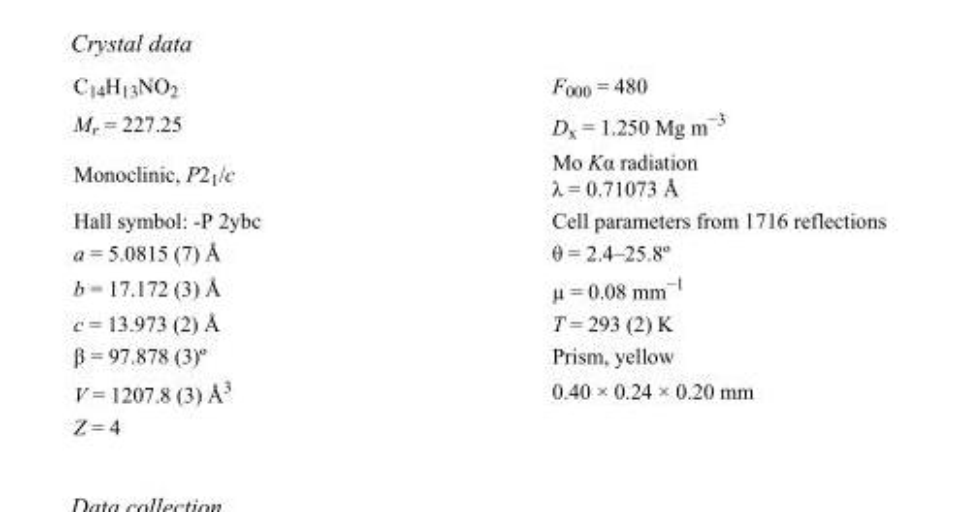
<table><tbody><tr><td>C<sub>14</sub>H<sub>13</sub>NO<sub>2</sub></td><td>F000 = 480</td></tr><tr><td>M<sub>r</sub> = 227.25</td><td>D<sub>x</sub> = 1.250 Mg m<sup>−3</sup></td></tr><tr><td>Monoclinic, P2<sub>1</sub>/c</td><td>Mo Kα radiation λ = 0.71073 Å</td></tr><tr><td>Hall symbol: -P 2ybc</td><td>Cell parameters from 1716 reflections</td></tr><tr><td>a = 5.0815 (7) Å</td><td>θ = 2.4–25.8º</td></tr><tr><td>b = 17.172 (3) Å</td><td>µ = 0.08 mm<sup>−1</sup></td></tr><tr><td>c = 13.973 (2) Å</td><td>T = 293 (2) K</td></tr><tr><td>β = 97.878 (3)º</td><td>Prism, yellow</td></tr><tr><td>V = 1207.8 (3) Å<sup>3</sup></td><td>0.40 × 0.24 × 0.20 mm</td></tr><tr><td>Z = 4</td><td></td></tr></tbody></table>